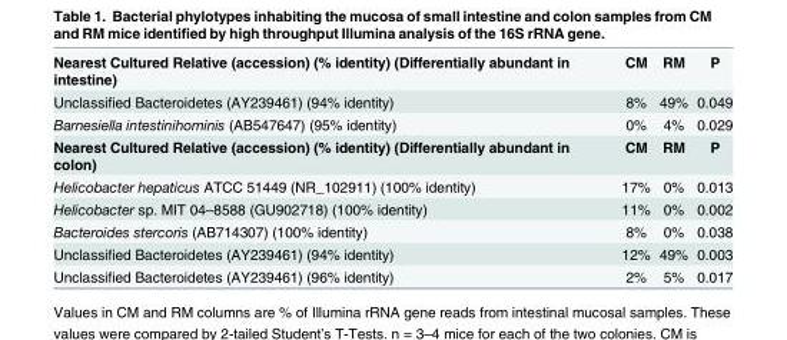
<table><tbody><tr><td>Nearest Cultured Relative (accession) (% identity) (Differentially abundant in intestine)</td><td>CM</td><td>RM</td><td>P</td></tr><tr><td>Unclassified Bacteroidetes (AY239461) (94% identity)</td><td>8%</td><td>49%</td><td>0.049</td></tr><tr><td>Barnesiella intestinihominis (AB547647) (95% identity)</td><td>0%</td><td>4%</td><td>0.029</td></tr><tr><td>Nearest Cultured Relative (accession) (% identity) (Differentially abundant in colon)</td><td>CM</td><td>RM</td><td>P</td></tr><tr><td>Helicobacter hepaticus ATCC 51449 (NR_102911) (100% identity)</td><td>17%</td><td>0%</td><td>0.013</td></tr><tr><td>Helicobacter sp. MIT 04–8588 (GU902718) (100% identity)</td><td>11%</td><td>0%</td><td>0.002</td></tr><tr><td>Bacteroides stercoris (AB714307) (100% identity)</td><td>8%</td><td>0%</td><td>0.038</td></tr><tr><td>Unclassified Bacteroidetes (AY239461) (94% identity)</td><td>12%</td><td>49%</td><td>0.003</td></tr><tr><td>Unclassified Bacteroidetes (AY239461) (96% identity)</td><td>2%</td><td>5%</td><td>0.017</td></tr></tbody></table>